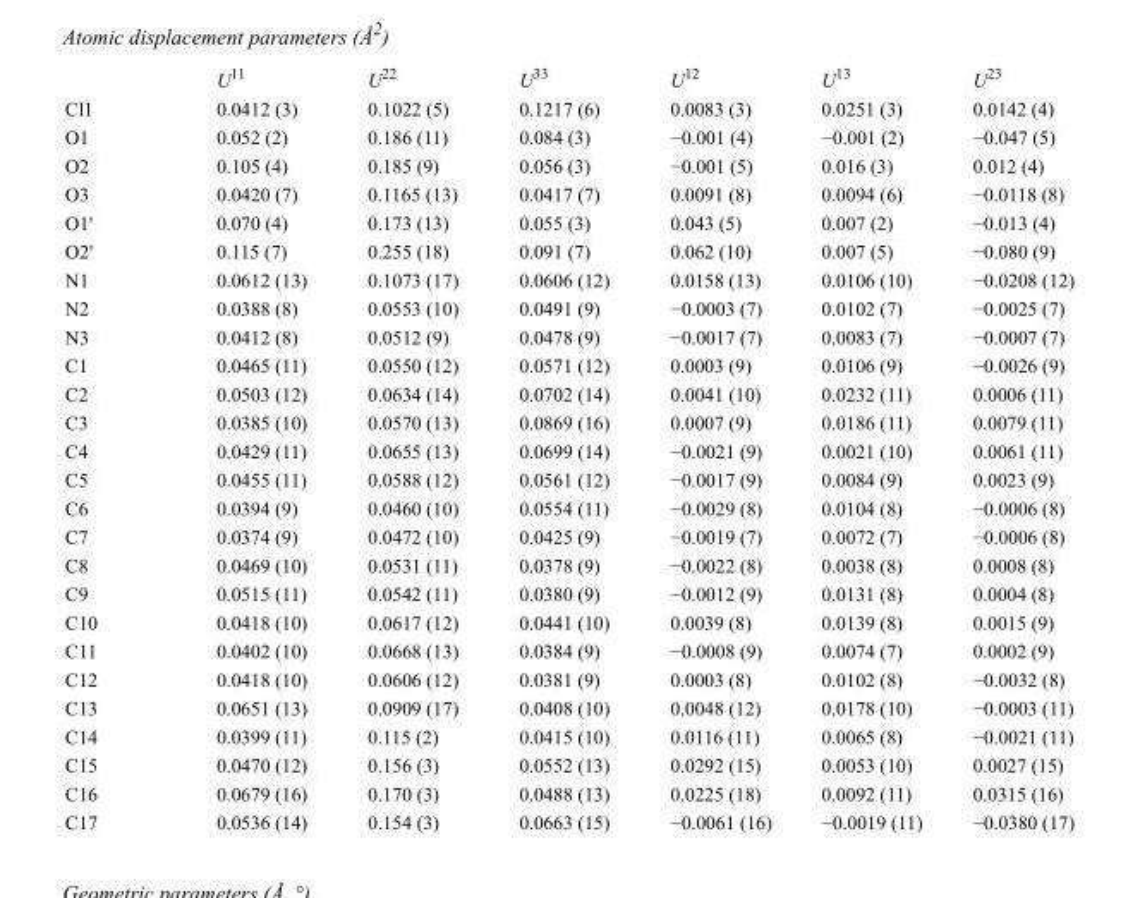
<table><thead><tr><td></td><td>U<sup>11</sup></td><td>U<sup>22</sup></td><td>U<sup>33</sup></td><td>U<sup>12</sup></td><td>U<sup>13</sup></td><td>U<sup>23</sup></td></tr></thead><tbody><tr><td>Cl1</td><td>0.0412 (3)</td><td>0.1022 (5)</td><td>0.1217 (6)</td><td>0.0083 (3)</td><td>0.0251 (3)</td><td>0.0142 (4)</td></tr><tr><td>O1</td><td>0.052 (2)</td><td>0.186 (11)</td><td>0.084 (3)</td><td>−0.001 (4)</td><td>−0.001 (2)</td><td>−0.047 (5)</td></tr><tr><td>O2</td><td>0.105 (4)</td><td>0.185 (9)</td><td>0.056 (3)</td><td>−0.001 (5)</td><td>0.016 (3)</td><td>0.012 (4)</td></tr><tr><td>O3</td><td>0.0420 (7)</td><td>0.1165 (13)</td><td>0.0417 (7)</td><td>0.0091 (8)</td><td>0.0094 (6)</td><td>−0.0118 (8)</td></tr><tr><td>O1&#x27;</td><td>0.070 (4)</td><td>0.173 (13)</td><td>0.055 (3)</td><td>0.043 (5)</td><td>0.007 (2)</td><td>−0.013 (4)</td></tr><tr><td>O2&#x27;</td><td>0.115 (7)</td><td>0.255 (18)</td><td>0.091 (7)</td><td>0.062 (10)</td><td>0.007 (5)</td><td>−0.080 (9)</td></tr><tr><td>N1</td><td>0.0612 (13)</td><td>0.1073 (17)</td><td>0.0606 (12)</td><td>0.0158 (13)</td><td>0.0106 (10)</td><td>−0.0208 (12)</td></tr><tr><td>N2</td><td>0.0388 (8)</td><td>0.0553 (10)</td><td>0.0491 (9)</td><td>−0.0003 (7)</td><td>0.0102 (7)</td><td>−0.0025 (7)</td></tr><tr><td>N3</td><td>0.0412 (8)</td><td>0.0512 (9)</td><td>0.0478 (9)</td><td>−0.0017 (7)</td><td>0.0083 (7)</td><td>−0.0007 (7)</td></tr><tr><td>C1</td><td>0.0465 (11)</td><td>0.0550 (12)</td><td>0.0571 (12)</td><td>0.0003 (9)</td><td>0.0106 (9)</td><td>−0.0026 (9)</td></tr><tr><td>C2</td><td>0.0503 (12)</td><td>0.0634 (14)</td><td>0.0702 (14)</td><td>0.0041 (10)</td><td>0.0232 (11)</td><td>0.0006 (11)</td></tr><tr><td>C3</td><td>0.0385 (10)</td><td>0.0570 (13)</td><td>0.0869 (16)</td><td>0.0007 (9)</td><td>0.0186 (11)</td><td>0.0079 (11)</td></tr><tr><td>C4</td><td>0.0429 (11)</td><td>0.0655 (13)</td><td>0.0699 (14)</td><td>−0.0021 (9)</td><td>0.0021 (10)</td><td>0.0061 (11)</td></tr><tr><td>C5</td><td>0.0455 (11)</td><td>0.0588 (12)</td><td>0.0561 (12)</td><td>−0.0017 (9)</td><td>0.0084 (9)</td><td>0.0023 (9)</td></tr><tr><td>C6</td><td>0.0394 (9)</td><td>0.0460 (10)</td><td>0.0554 (11)</td><td>−0.0029 (8)</td><td>0.0104 (8)</td><td>−0.0006 (8)</td></tr><tr><td>C7</td><td>0.0374 (9)</td><td>0.0472 (10)</td><td>0.0425 (9)</td><td>−0.0019 (7)</td><td>0.0072 (7)</td><td>−0.0006 (8)</td></tr><tr><td>C8</td><td>0.0469 (10)</td><td>0.0531 (11)</td><td>0.0378 (9)</td><td>−0.0022 (8)</td><td>0.0038 (8)</td><td>0.0008 (8)</td></tr><tr><td>C9</td><td>0.0515 (11)</td><td>0.0542 (11)</td><td>0.0380 (9)</td><td>−0.0012 (9)</td><td>0.0131 (8)</td><td>0.0004 (8)</td></tr><tr><td>C10</td><td>0.0418 (10)</td><td>0.0617 (12)</td><td>0.0441 (10)</td><td>0.0039 (8)</td><td>0.0139 (8)</td><td>0.0015 (9)</td></tr><tr><td>C11</td><td>0.0402 (10)</td><td>0.0668 (13)</td><td>0.0384 (9)</td><td>−0.0008 (9)</td><td>0.0074 (7)</td><td>0.0002 (9)</td></tr><tr><td>C12</td><td>0.0418 (10)</td><td>0.0606 (12)</td><td>0.0381 (9)</td><td>0.0003 (8)</td><td>0.0102 (8)</td><td>−0.0032 (8)</td></tr><tr><td>C13</td><td>0.0651 (13)</td><td>0.0909 (17)</td><td>0.0408 (10)</td><td>0.0048 (12)</td><td>0.0178 (10)</td><td>−0.0003 (11)</td></tr><tr><td>C14</td><td>0.0399 (11)</td><td>0.115 (2)</td><td>0.0415 (10)</td><td>0.0116 (11)</td><td>0.0065 (8)</td><td>−0.0021 (11)</td></tr><tr><td>C15</td><td>0.0470 (12)</td><td>0.156 (3)</td><td>0.0552 (13)</td><td>0.0292 (15)</td><td>0.0053 (10)</td><td>0.0027 (15)</td></tr><tr><td>C16</td><td>0.0679 (16)</td><td>0.170 (3)</td><td>0.0488 (13)</td><td>0.0225 (18)</td><td>0.0092 (11)</td><td>0.0315 (16)</td></tr><tr><td>C17</td><td>0.0536 (14)</td><td>0.154 (3)</td><td>0.0663 (15)</td><td>−0.0061 (16)</td><td>−0.0019 (11)</td><td>−0.0380 (17)</td></tr></tbody></table>